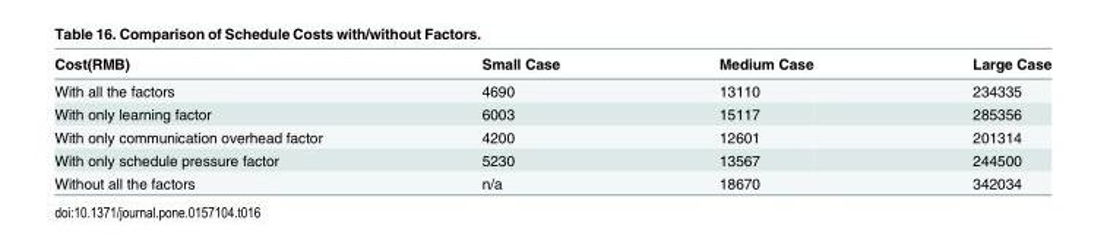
<table><thead><tr><td>Cost(RMB)</td><td>Small Case</td><td>Medium Case</td><td>Large Case</td></tr></thead><tbody><tr><td>With all the factors</td><td>4690</td><td>13110</td><td>234335</td></tr><tr><td>With only learning factor</td><td>6003</td><td>15117</td><td>285356</td></tr><tr><td>With only communication overhead factor</td><td>4200</td><td>12601</td><td>201314</td></tr><tr><td>With only schedule pressure factor</td><td>5230</td><td>13567</td><td>244500</td></tr><tr><td>Without all the factors</td><td>n/a</td><td>18670</td><td>342034</td></tr></tbody></table>